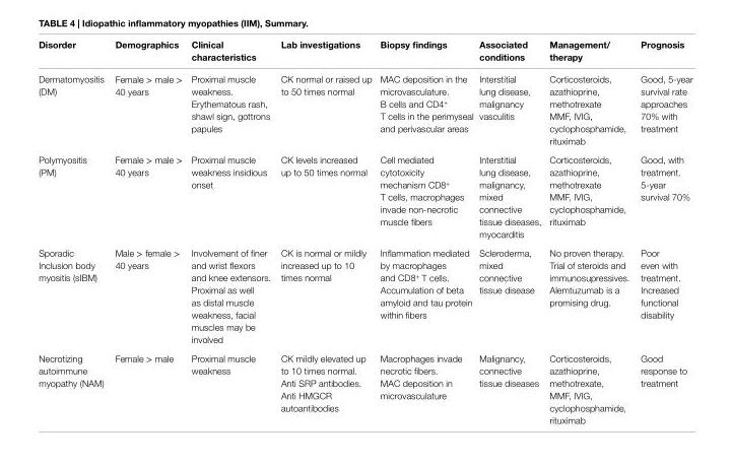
<table><thead><tr><td>Disorder</td><td>Demographics</td><td>Clinical characteristics</td><td>Lab investigations</td><td>Biopsy findings</td><td>Associated conditions</td><td>Management/ therapy</td><td>Prognosis</td></tr></thead><tbody><tr><td>Dermatomyositis (DM)</td><td>Female &gt; male &gt; 40 years</td><td>Proximal muscle weakness. Erythematous rash, shawl sign, gottrons papules</td><td>CK normal or raised up to 50 times normal</td><td>MAC deposition in the microvasculature. B cells and CD4<sup>+</sup> T cells in the perimyseal and perivascular areas</td><td>Interstitial lung disease, malignancy vasculitis</td><td>Corticosteroids, azathioprine, methotrexate MMF, IVIG, cyclophosphamide, rituximab</td><td>Good, 5-year survival rate approaches 70% with treatment</td></tr><tr><td>Polymyositis (PM)</td><td>Female &gt; male &gt; 40 years</td><td>Proximal muscle weakness insidious onset</td><td>CK levels increased up to 50 times normal</td><td>Cell mediated cytotoxicity mechanism CD8<sup>+</sup> T cells, macrophages invade non-necrotic muscle fibers</td><td>Interstitial lung disease, malignancy, mixed connective tissue diseases, myocarditis</td><td>Corticosteroids, azathioprine, methotrexate MMF, IVIG, cyclophosphamide, rituximab</td><td>Good, with treatment. 5-year survival 70%</td></tr><tr><td>Sporadic Inclusion body myositis (sIBM)</td><td>Male &gt; female &gt; 40 years</td><td>Involvement of finer and wrist flexors and knee extensors. Proximal as well as distal muscle weakness, facial muscles may be involved</td><td>CK is normal or mildly increased up to 10 times normal</td><td>Inflammation mediated by macrophages and CD8<sup>+</sup> T cells. Accumulation of beta amyloid and tau protein within fibers</td><td>Scleroderma, mixed connective tissue disease</td><td>No proven therapy. Trial of steroids and immunosupressives. Alemtuzumab is a promising drug.</td><td>Poor even with treatment. Increased functional disability</td></tr><tr><td>Necrotizing autoimmune myopathy (NAM)</td><td>Female &gt; male</td><td>Proximal muscle weakness</td><td>CK mildly elevated up to 10 times normal. Anti SRP antibodies. Anti HMGCR autoantibodies</td><td>Macrophages invade necrotic fibers. MAC deposition in microvasculature</td><td>Malignancy, connective tissue diseases</td><td>Corticosteroids, azathioprine, methotrexate, MMF, IVIG, cyclophosphamide, rituximab</td><td>Good response to treatment</td></tr></tbody></table>